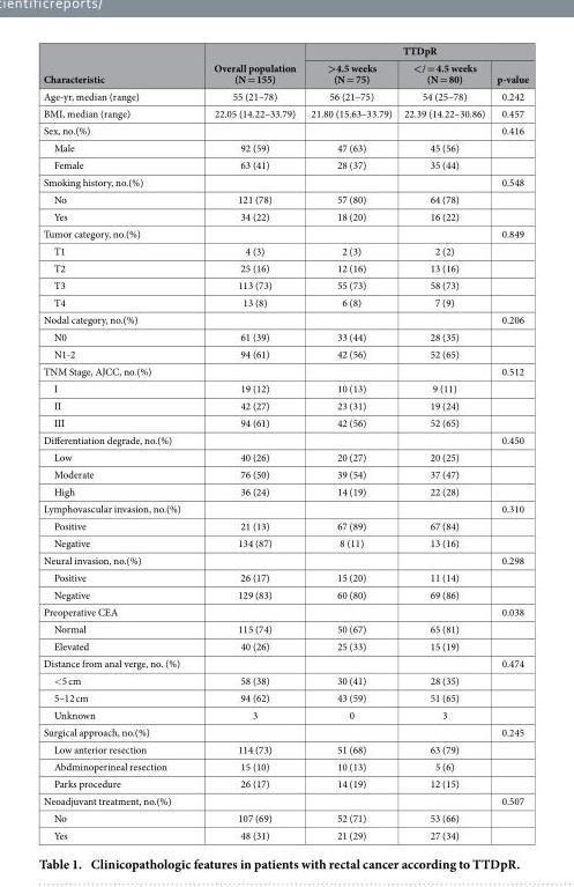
<table><thead><tr><td rowspan="2">Characteristic</td><td rowspan="2">Overall population (N = 155)</td><td colspan="3">TTDpR</td></tr><tr><td>&gt;4.5 weeks (N = 75)</td><td>&lt;/ = 4.5 weeks (N = 80)</td><td>p-value</td></tr></thead><tbody><tr><td>Age-yr, median (range)</td><td>55 (21–78)</td><td>56 (21–75)</td><td>54 (25–78)</td><td>0.242</td></tr><tr><td>BMI, median (range)</td><td>22.05 (14.22–33.79)</td><td>21.80 (15.63–33.79)</td><td>22.39 (14.22–30.86)</td><td>0.457</td></tr><tr><td>Sex, no.(%)</td><td></td><td></td><td></td><td>0.416</td></tr><tr><td>Male</td><td>92 (59)</td><td>47 (63)</td><td>45 (56)</td><td></td></tr><tr><td>Female</td><td>63 (41)</td><td>28 (37)</td><td>35 (44)</td><td></td></tr><tr><td>Smoking history, no.(%)</td><td></td><td></td><td></td><td>0.548</td></tr><tr><td>No</td><td>121 (78)</td><td>57 (80)</td><td>64 (78)</td><td></td></tr><tr><td>Yes</td><td>34 (22)</td><td>18 (20)</td><td>16 (22)</td><td></td></tr><tr><td>Tumor category, no.(%)</td><td></td><td></td><td></td><td>0.849</td></tr><tr><td>T1</td><td>4 (3)</td><td>2 (3)</td><td>2 (2)</td><td></td></tr><tr><td>T2</td><td>25 (16)</td><td>12 (16)</td><td>13 (16)</td><td></td></tr><tr><td>T3</td><td>113 (73)</td><td>55 (73)</td><td>58 (73)</td><td></td></tr><tr><td>T4</td><td>13 (8)</td><td>6 (8)</td><td>7 (9)</td><td></td></tr><tr><td>Nodal category, no.(%)</td><td></td><td></td><td></td><td>0.206</td></tr><tr><td>N0</td><td>61 (39)</td><td>33 (44)</td><td>28 (35)</td><td></td></tr><tr><td>N1-2</td><td>94 (61)</td><td>42 (56)</td><td>52 (65)</td><td></td></tr><tr><td>TNM Stage, AJCC, no.(%)</td><td></td><td></td><td></td><td>0.512</td></tr><tr><td>I</td><td>19 (12)</td><td>10 (13)</td><td>9 (11)</td><td></td></tr><tr><td>II</td><td>42 (27)</td><td>23 (31)</td><td>19 (24)</td><td></td></tr><tr><td>III</td><td>94 (61)</td><td>42 (56)</td><td>52 (65)</td><td></td></tr><tr><td>Differentiation degrade, no.(%)</td><td></td><td></td><td></td><td>0.450</td></tr><tr><td>Low</td><td>40 (26)</td><td>20 (27)</td><td>20 (25)</td><td></td></tr><tr><td>Moderate</td><td>76 (50)</td><td>39 (54)</td><td>37 (47)</td><td></td></tr><tr><td>High</td><td>36 (24)</td><td>14 (19)</td><td>22 (28)</td><td></td></tr><tr><td>Lymphovascular invasion, no.(%)</td><td></td><td></td><td></td><td>0.310</td></tr><tr><td>Positive</td><td>21 (13)</td><td>67 (89)</td><td>67 (84)</td><td></td></tr><tr><td>Negative</td><td>134 (87)</td><td>8 (11)</td><td>13 (16)</td><td></td></tr><tr><td>Neural invasion, no.(%)</td><td></td><td></td><td></td><td>0.298</td></tr><tr><td>Positive</td><td>26 (17)</td><td>15 (20)</td><td>11 (14)</td><td></td></tr><tr><td>Negative</td><td>129 (83)</td><td>60 (80)</td><td>69 (86)</td><td></td></tr><tr><td>Preoperative CEA</td><td></td><td></td><td></td><td>0.038</td></tr><tr><td>Normal</td><td>115 (74)</td><td>50 (67)</td><td>65 (81)</td><td></td></tr><tr><td>Elevated</td><td>40 (26)</td><td>25 (33)</td><td>15 (19)</td><td></td></tr><tr><td>Distance from anal verge, no. (%)</td><td></td><td></td><td></td><td>0.474</td></tr><tr><td>&lt; 5 cm</td><td>58 (38)</td><td>30 (41)</td><td>28 (35)</td><td></td></tr><tr><td>5–12 cm</td><td>94 (62)</td><td>43 (59)</td><td>51 (65)</td><td></td></tr><tr><td>Unknown</td><td>3</td><td>0</td><td>3</td><td></td></tr><tr><td>Surgical approach, no.(%)</td><td></td><td></td><td></td><td>0.245</td></tr><tr><td>Low anterior resection</td><td>114 (73)</td><td>51 (68)</td><td>63 (79)</td><td></td></tr><tr><td>Abdminoperineal resection</td><td>15 (10)</td><td>10 (13)</td><td>5 (6)</td><td></td></tr><tr><td>Parks procedure</td><td>26 (17)</td><td>14 (19)</td><td>12 (15)</td><td></td></tr><tr><td>Neoadjuvant treatment, no.(%)</td><td></td><td></td><td></td><td>0.507</td></tr><tr><td>No</td><td>107 (69)</td><td>52 (71)</td><td>53 (66)</td><td></td></tr><tr><td>Yes</td><td>48 (31)</td><td>21 (29)</td><td>27 (34)</td><td></td></tr></tbody></table>